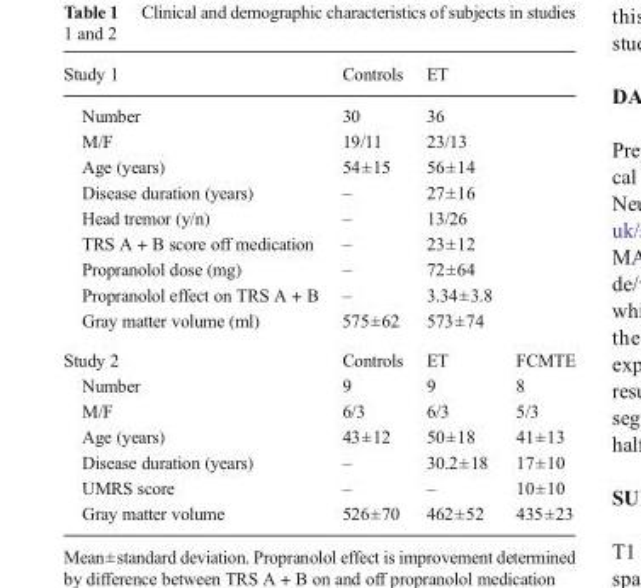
<table><thead><tr><td>Study 1</td><td>Controls</td><td>ET</td><td></td></tr></thead><tbody><tr><td>Number</td><td>30</td><td>36</td><td></td></tr><tr><td>M/F</td><td>19/11</td><td>23/13</td><td></td></tr><tr><td>Age (years)</td><td>54±15</td><td>56±14</td><td></td></tr><tr><td>Disease duration (years)</td><td>–</td><td>27±16</td><td></td></tr><tr><td>Head tremor (y/n)</td><td>–</td><td>13/26</td><td></td></tr><tr><td>TRS A + B score off medication</td><td>–</td><td>23±12</td><td></td></tr><tr><td>Propranolol dose (mg)</td><td>–</td><td>72±64</td><td></td></tr><tr><td>Propranolol effect on TRS A + B</td><td>–</td><td>3.34±3.8</td><td></td></tr><tr><td>Gray matter volume (ml)</td><td>575±62</td><td>573±74</td><td></td></tr><tr><td>Study 2</td><td>Controls</td><td>ET</td><td>FCMTE</td></tr><tr><td>Number</td><td>9</td><td>9</td><td>8</td></tr><tr><td>M/F</td><td>6/3</td><td>6/3</td><td>5/3</td></tr><tr><td>Age (years)</td><td>43±12</td><td>50±18</td><td>41±13</td></tr><tr><td>Disease duration (years)</td><td>–</td><td>30.2±18</td><td>17±10</td></tr><tr><td>UMRS score</td><td>–</td><td>–</td><td>10±10</td></tr><tr><td>Gray matter volume</td><td>526±70</td><td>462±52</td><td>435±23</td></tr></tbody></table>